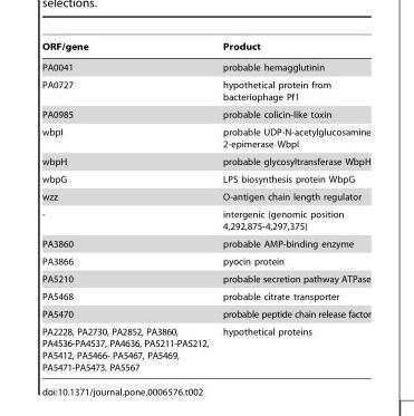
<table><thead><tr><td>ORF/gene</td><td>Product</td></tr></thead><tbody><tr><td>PA0041</td><td>probable hemagglutinin</td></tr><tr><td>PA0727</td><td>hypothetical protein from bacteriophage Pf1</td></tr><tr><td>PA0985</td><td>probable colicin-like toxin</td></tr><tr><td>wbpI</td><td>probable UDP-N-acetylglucosamine 2-epimerase WbpI</td></tr><tr><td>wbpH</td><td>probable glycosyltransferase WbpH</td></tr><tr><td>wbpG</td><td>LPS biosynthesis protein WbpG</td></tr><tr><td>wzz</td><td>O-antigen chain length regulator</td></tr><tr><td>-</td><td>intergenic (genomic position 4,292,875-4,297,375)</td></tr><tr><td>PA3860</td><td>probable AMP-binding enzyme</td></tr><tr><td>PA3866</td><td>pyocin protein</td></tr><tr><td>PA5210</td><td>probable secretion pathway ATPase</td></tr><tr><td>PA5468</td><td>probable citrate transporter</td></tr><tr><td>PA5470</td><td>probable peptide chain release factor</td></tr><tr><td>PA2228, PA2730, PA2852, PA3860, PA4536-PA4537, PA4636, PA5211-PA5212, PA5412, PA5466- PA5467, PA5469, PA5471-PA5473, PA5567</td><td>hypothetical proteins</td></tr></tbody></table>